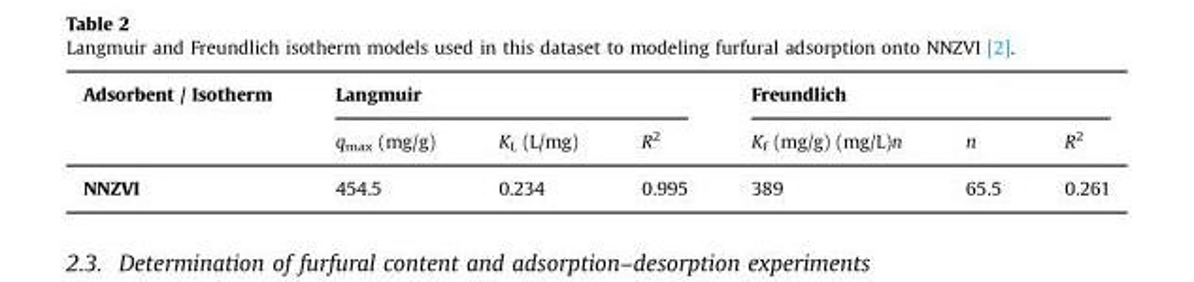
<table><thead><tr><td rowspan="2">Adsorbent / Isotherm</td><td colspan="3">Langmuir</td><td colspan="3">Freundlich</td></tr><tr><td>q<sub>max</sub> (mg/g)</td><td>K<sub>L</sub> (L/mg)</td><td>R<sup>2</sup></td><td>K<sub>f</sub> (mg/g) (mg/L)n</td><td>n</td><td>R<sup>2</sup></td></tr></thead><tbody><tr><td>NNZVI</td><td>454.5</td><td>0.234</td><td>0.995</td><td>389</td><td>65.5</td><td>0.261</td></tr></tbody></table>